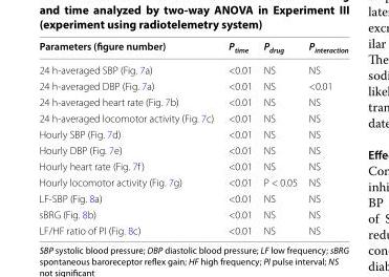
<table><thead><tr><td>Parameters (figure number)</td><td>P<sub>time</sub></td><td>P<sub>drug</sub></td><td>P<sub>interaction</sub></td></tr></thead><tbody><tr><td>24 h‑averaged SBP (Fig. 7a)</td><td>&lt;0.01</td><td>NS</td><td>NS</td></tr><tr><td>24 h‑averaged DBP (Fig. 7a)</td><td>&lt;0.01</td><td>NS</td><td>&lt;0.01</td></tr><tr><td>24 h‑averaged heart rate (Fig. 7b)</td><td>&lt;0.01</td><td>NS</td><td>NS</td></tr><tr><td>24 h‑averaged locomotor activity (Fig. 7c)</td><td>&lt;0.01</td><td>NS</td><td>NS</td></tr><tr><td>Hourly SBP (Fig. 7d)</td><td>&lt;0.01</td><td>NS</td><td>NS</td></tr><tr><td>Hourly DBP (Fig. 7e)</td><td>&lt;0.01</td><td>NS</td><td>NS</td></tr><tr><td>Hourly heart rate (Fig. 7f)</td><td>&lt;0.01</td><td>NS</td><td>NS</td></tr><tr><td>Hourly locomotor activity (Fig. 7g)</td><td>&lt;0.01</td><td>P &lt; 0.05</td><td>NS</td></tr><tr><td>LF‑SBP (Fig. 8a)</td><td>&lt;0.01</td><td>NS</td><td>NS</td></tr><tr><td>sBRG (Fig. 8b)</td><td>&lt;0.01</td><td>NS</td><td>NS</td></tr><tr><td>LF/HF ratio of PI (Fig. 8c)</td><td>&lt;0.01</td><td>NS</td><td>NS</td></tr></tbody></table>